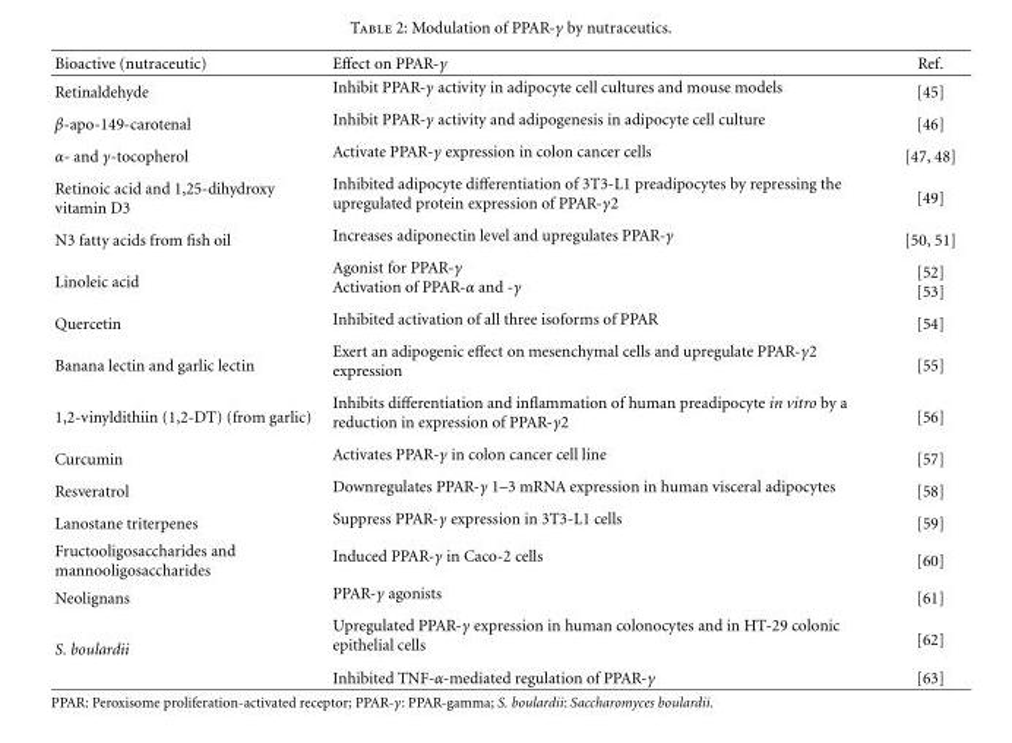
<table><thead><tr><td>Bioactive (nutraceutic)</td><td>Effect on PPAR-γ</td><td>Ref.</td></tr></thead><tbody><tr><td>Retinaldehyde</td><td>Inhibit PPAR-γ activity in adipocyte cell cultures and mouse models</td><td>[45]</td></tr><tr><td>β-apo-149-carotenal</td><td>Inhibit PPAR-γ activity and adipogenesis in adipocyte cell culture</td><td>[46]</td></tr><tr><td>α- and γ-tocopherol</td><td>Activate PPAR-γ expression in colon cancer cells</td><td>[47, 48]</td></tr><tr><td>Retinoic acid and 1,25-dihydroxy vitamin D3</td><td>Inhibited adipocyte differentiation of 3T3-L1 preadipocytes by repressing the upregulated protein expression of PPAR-γ2</td><td>[49]</td></tr><tr><td>N3 fatty acids from fish oil</td><td>Increases adiponectin level and upregulates PPAR-γ</td><td>[50, 51]</td></tr><tr><td>Linoleic acid</td><td>Agonist for PPAR-γ Activation of PPAR-α and -γ</td><td>[52] [53]</td></tr><tr><td>Quercetin</td><td>Inhibited activation of all three isoforms of PPAR</td><td>[54]</td></tr><tr><td>Banana lectin and garlic lectin</td><td>Exert an adipogenic effect on mesenchymal cells and upregulate PPAR-γ2 expression</td><td>[55]</td></tr><tr><td>1,2-vinyldithiin (1,2-DT) (from garlic)</td><td>Inhibits differentiation and inflammation of human preadipocyte in vitro by a reduction in expression of PPAR-γ2</td><td>[56]</td></tr><tr><td>Curcumin</td><td>Activates PPAR-γ in colon cancer cell line</td><td>[57]</td></tr><tr><td>Resveratrol</td><td>Downregulates PPAR-γ 1–3 mRNA expression in human visceral adipocytes</td><td>[58]</td></tr><tr><td>Lanostane triterpenes</td><td>Suppress PPAR-γ expression in 3T3-L1 cells</td><td>[59]</td></tr><tr><td>Fructooligosaccharides and mannooligosaccharides</td><td>Induced PPAR-γ in Caco-2 cells</td><td>[60]</td></tr><tr><td>Neolignans</td><td>PPAR-γ agonists</td><td>[61]</td></tr><tr><td rowspan="2">S. boulardii</td><td>Upregulated PPAR-γ expression in human colonocytes and in HT-29 colonic epithelial cells</td><td>[62]</td></tr><tr><td>Inhibited TNF-α-mediated regulation of PPAR-γ</td><td>[63]</td></tr></tbody></table>